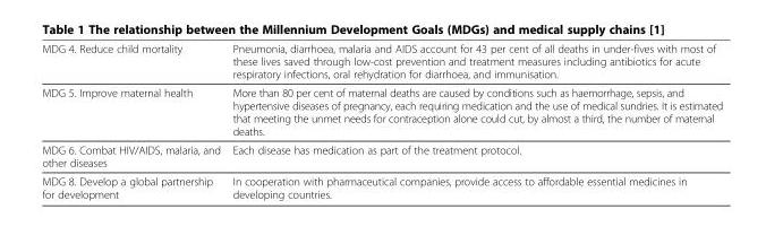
<table><tbody><tr><td>MDG 4. Reduce child mortality</td><td>Pneumonia, diarrhoea, malaria and AIDS account for 43 per cent of all deaths in under-fives with most of these lives saved through low-cost prevention and treatment measures including antibiotics for acute respiratory infections, oral rehydration for diarrhoea, and immunisation.</td></tr><tr><td>MDG 5. Improve maternal health</td><td>More than 80 per cent of maternal deaths are caused by conditions such as haemorrhage, sepsis, and hypertensive diseases of pregnancy, each requiring medication and the use of medical sundries. It is estimated that meeting the unmet needs for contraception alone could cut, by almost a third, the number of maternal deaths.</td></tr><tr><td>MDG 6. Combat HIV/AIDS, malaria, and other diseases</td><td>Each disease has medication as part of the treatment protocol.</td></tr><tr><td>MDG 8. Develop a global partnership for development</td><td>In cooperation with pharmaceutical companies, provide access to affordable essential medicines in developing countries.</td></tr></tbody></table>